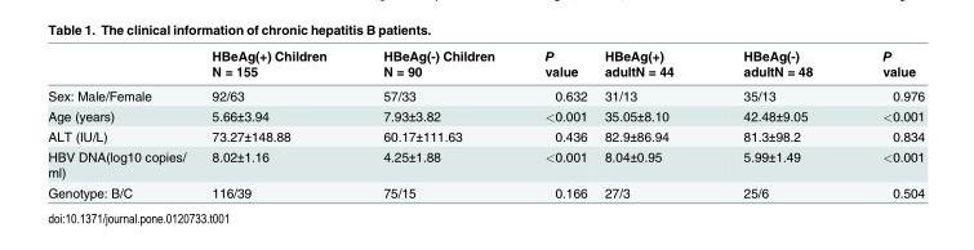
<table><thead><tr><td></td><td>HBeAg(+) Children N = 155</td><td>HBeAg(-) Children N = 90</td><td>P value</td><td>HBeAg(+) adultN = 44</td><td>HBeAg(-) adultN = 48</td><td>P value</td></tr></thead><tbody><tr><td>Sex: Male/Female</td><td>92/63</td><td>57/33</td><td>0.632</td><td>31/13</td><td>35/13</td><td>0.976</td></tr><tr><td>Age (years)</td><td>5.66±3.94</td><td>7.93±3.82</td><td>&lt;0.001</td><td>35.05±8.10</td><td>42.48±9.05</td><td>&lt;0.001</td></tr><tr><td>ALT (IU/L)</td><td>73.27±148.88</td><td>60.17±111.63</td><td>0.436</td><td>82.9±86.94</td><td>81.3±98.2</td><td>0.834</td></tr><tr><td>HBV DNA(log10 copies/ ml)</td><td>8.02±1.16</td><td>4.25±1.88</td><td>&lt;0.001</td><td>8.04±0.95</td><td>5.99±1.49</td><td>&lt;0.001</td></tr><tr><td>Genotype: B/C</td><td>116/39</td><td>75/15</td><td>0.166</td><td>27/3</td><td>25/6</td><td>0.504</td></tr></tbody></table>